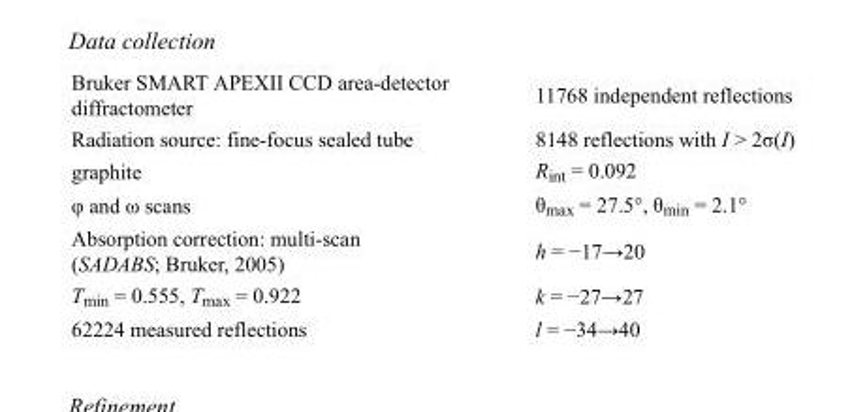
<table><tbody><tr><td>Bruker SMART APEXII CCD area-detector diffractometer</td><td>11768 independent reflections</td></tr><tr><td>Radiation source: fine-focus sealed tube</td><td>8148 reflections with I &gt; 2σ(I)</td></tr><tr><td>graphite</td><td>R<sub>int</sub> = 0.092</td></tr><tr><td>φ and ω scans</td><td>θ<sub>max</sub> = 27.5°, θ<sub>min</sub> = 2.1°</td></tr><tr><td>Absorption correction: multi-scan (SADABS; Bruker, 2005)</td><td>h = −17→20</td></tr><tr><td>T<sub>min</sub> = 0.555, T<sub>max</sub> = 0.922</td><td>k = −27→27</td></tr><tr><td>62224 measured reflections</td><td>l = −34→40</td></tr></tbody></table>